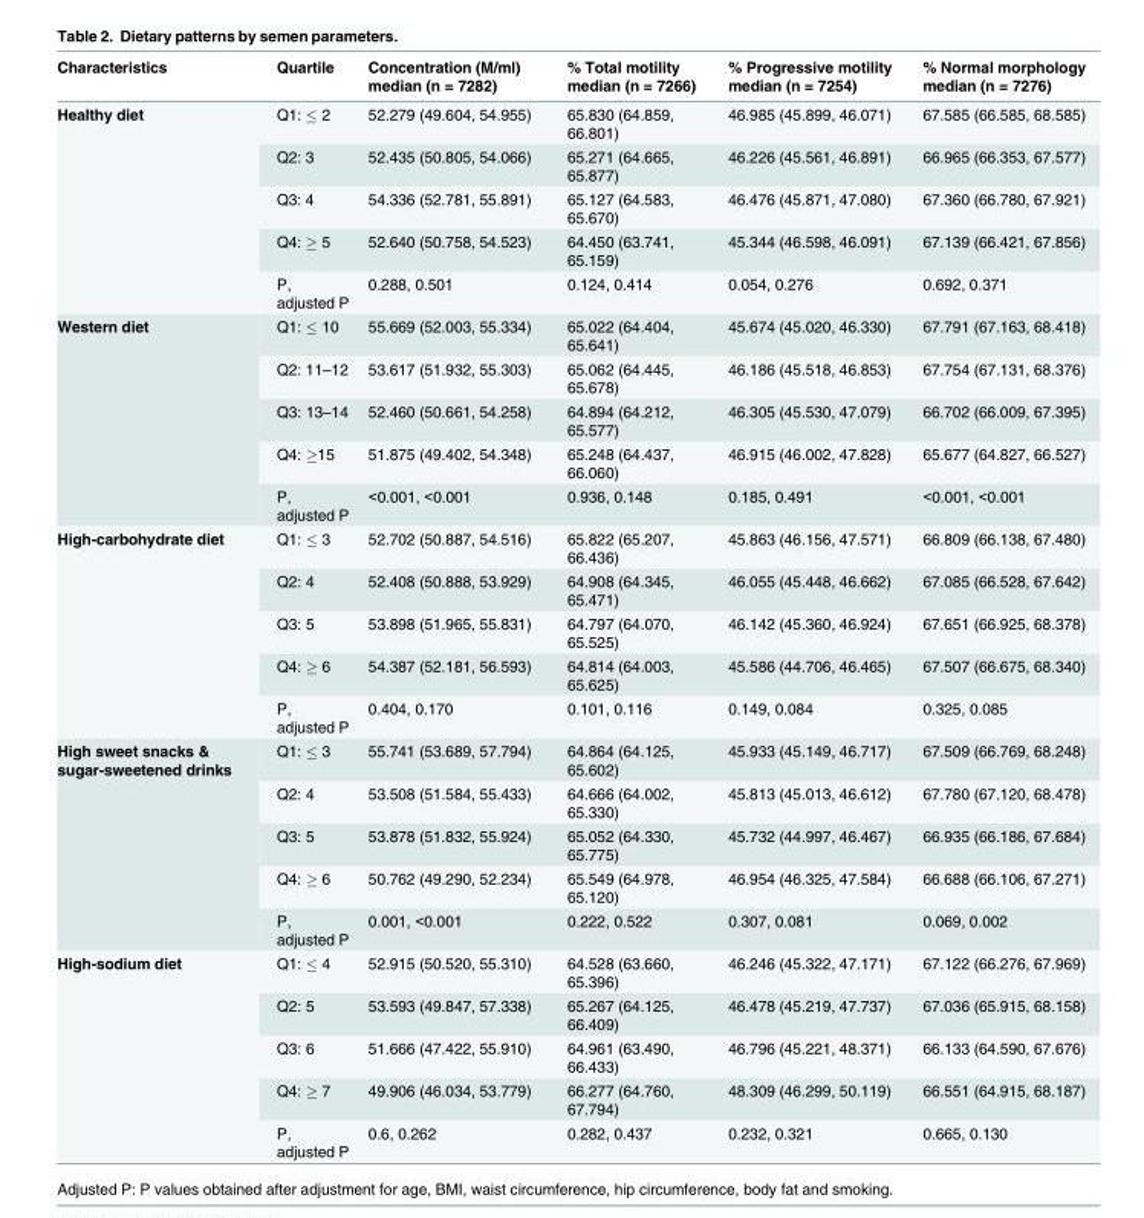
<table><thead><tr><td>Characteristics</td><td>Quartile</td><td>Concentration (M/ml) median (n = 7282)</td><td>% Total motility median (n = 7266)</td><td>% Progressive motility median (n = 7254)</td><td>% Normal morphology median (n = 7276)</td></tr></thead><tbody><tr><td rowspan="5">Healthy diet</td><td>Q1: ≤ 2</td><td>52.279 (49.604, 54.955)</td><td>65.830 (64.859, 66.801)</td><td>46.985 (45.899, 46.071)</td><td>67.585 (66.585, 68.585)</td></tr><tr><td>Q2: 3</td><td>52.435 (50.805, 54.066)</td><td>65.271 (64.665, 65.877)</td><td>46.226 (45.561, 46.891)</td><td>66.965 (66.353, 67.577)</td></tr><tr><td>Q3: 4</td><td>54.336 (52.781, 55.891)</td><td>65.127 (64.583, 65.670)</td><td>46.476 (45.871, 47.080)</td><td>67.360 (66.780, 67.921)</td></tr><tr><td>Q4: ≥ 5</td><td>52.640 (50.758, 54.523)</td><td>64.450 (63.741, 65.159)</td><td>45.344 (46.598, 46.091)</td><td>67.139 (66.421, 67.856)</td></tr><tr><td>P, adjusted P</td><td>0.288, 0.501</td><td>0.124, 0.414</td><td>0.054, 0.276</td><td>0.692, 0.371</td></tr><tr><td rowspan="5">Western diet</td><td>Q1: ≤ 10</td><td>55.669 (52.003, 55.334)</td><td>65.022 (64.404, 65.641)</td><td>45.674 (45.020, 46.330)</td><td>67.791 (67.163, 68.418)</td></tr><tr><td>Q2: 11–12</td><td>53.617 (51.932, 55.303)</td><td>65.062 (64.445, 65.678)</td><td>46.186 (45.518, 46.853)</td><td>67.754 (67.131, 68.376)</td></tr><tr><td>Q3: 13–14</td><td>52.460 (50.661, 54.258)</td><td>64.894 (64.212, 65.577)</td><td>46.305 (45.530, 47.079)</td><td>66.702 (66.009, 67.395)</td></tr><tr><td>Q4: ≥15</td><td>51.875 (49.402, 54.348)</td><td>65.248 (64.437, 66.060)</td><td>46.915 (46.002, 47.828)</td><td>65.677 (64.827, 66.527)</td></tr><tr><td>P, adjusted P</td><td>&lt;0.001, &lt;0.001</td><td>0.936, 0.148</td><td>0.185, 0.491</td><td>&lt;0.001, &lt;0.001</td></tr><tr><td rowspan="5">High-carbohydrate diet</td><td>Q1: ≤ 3</td><td>52.702 (50.887, 54.516)</td><td>65.822 (65.207, 66.436)</td><td>45.863 (46.156, 47.571)</td><td>66.809 (66.138, 67.480)</td></tr><tr><td>Q2: 4</td><td>52.408 (50.888, 53.929)</td><td>64.908 (64.345, 65.471)</td><td>46.055 (45.448, 46.662)</td><td>67.085 (66.528, 67.642)</td></tr><tr><td>Q3: 5</td><td>53.898 (51.965, 55.831)</td><td>64.797 (64.070, 65.525)</td><td>46.142 (45.360, 46.924)</td><td>67.651 (66.925, 68.378)</td></tr><tr><td>Q4: ≥ 6</td><td>54.387 (52.181, 56.593)</td><td>64.814 (64.003, 65.625)</td><td>45.586 (44.706, 46.465)</td><td>67.507 (66.675, 68.340)</td></tr><tr><td>P, adjusted P</td><td>0.404, 0.170</td><td>0.101, 0.116</td><td>0.149, 0.084</td><td>0.325, 0.085</td></tr><tr><td rowspan="5">High sweet snacks &amp; sugar-sweetened drinks</td><td>Q1: ≤ 3</td><td>55.741 (53.689, 57.794)</td><td>64.864 (64.125, 65.602)</td><td>45.933 (45.149, 46.717)</td><td>67.509 (66.769, 68.248)</td></tr><tr><td>Q2: 4</td><td>53.508 (51.584, 55.433)</td><td>64.666 (64.002, 65.330)</td><td>45.813 (45.013, 46.612)</td><td>67.780 (67.120, 68.478)</td></tr><tr><td>Q3: 5</td><td>53.878 (51.832, 55.924)</td><td>65.052 (64.330, 65.775)</td><td>45.732 (44.997, 46.467)</td><td>66.935 (66.186, 67.684)</td></tr><tr><td>Q4: ≥ 6</td><td>50.762 (49.290, 52.234)</td><td>65.549 (64.978, 65.120)</td><td>46.954 (46.325, 47.584)</td><td>66.688 (66.106, 67.271)</td></tr><tr><td>P, adjusted P</td><td>0.001, &lt;0.001</td><td>0.222, 0.522</td><td>0.307, 0.081</td><td>0.069, 0.002</td></tr><tr><td rowspan="5">High-sodium diet</td><td>Q1: ≤ 4</td><td>52.915 (50.520, 55.310)</td><td>64.528 (63.660, 65.396)</td><td>46.246 (45.322, 47.171)</td><td>67.122 (66.276, 67.969)</td></tr><tr><td>Q2: 5</td><td>53.593 (49.847, 57.338)</td><td>65.267 (64.125, 66.409)</td><td>46.478 (45.219, 47.737)</td><td>67.036 (65.915, 68.158)</td></tr><tr><td>Q3: 6</td><td>51.666 (47.422, 55.910)</td><td>64.961 (63.490, 66.433)</td><td>46.796 (45.221, 48.371)</td><td>66.133 (64.590, 67.676)</td></tr><tr><td>Q4: ≥ 7</td><td>49.906 (46.034, 53.779)</td><td>66.277 (64.760, 67.794)</td><td>48.309 (46.299, 50.119)</td><td>66.551 (64.915, 68.187)</td></tr><tr><td>P, adjusted P</td><td>0.6, 0.262</td><td>0.282, 0.437</td><td>0.232, 0.321</td><td>0.665, 0.130</td></tr></tbody></table>